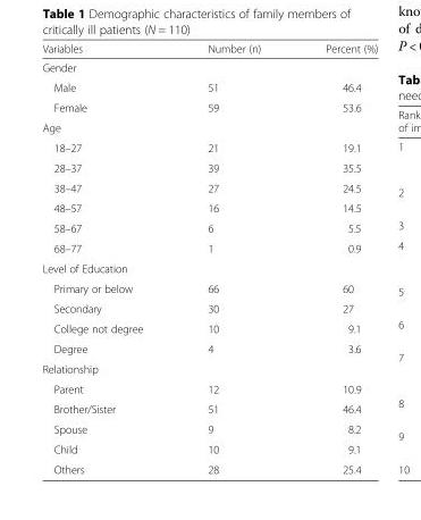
<table><thead><tr><td>Variables</td><td>Number (n)</td><td>Percent (%)</td></tr></thead><tbody><tr><td colspan="3">Gender</td></tr><tr><td>Male</td><td>51</td><td>46.4</td></tr><tr><td>Female</td><td>59</td><td>53.6</td></tr><tr><td colspan="3">Age</td></tr><tr><td>18–27</td><td>21</td><td>19.1</td></tr><tr><td>28–37</td><td>39</td><td>35.5</td></tr><tr><td>38–47</td><td>27</td><td>24.5</td></tr><tr><td>48–57</td><td>16</td><td>14.5</td></tr><tr><td>58–67</td><td>6</td><td>5.5</td></tr><tr><td>68–77</td><td>1</td><td>0.9</td></tr><tr><td colspan="3">Level of Education</td></tr><tr><td>Primary or below</td><td>66</td><td>60</td></tr><tr><td>Secondary</td><td>30</td><td>27</td></tr><tr><td>College not degree</td><td>10</td><td>9.1</td></tr><tr><td>Degree</td><td>4</td><td>3.6</td></tr><tr><td colspan="3">Relationship</td></tr><tr><td>Parent</td><td>12</td><td>10.9</td></tr><tr><td>Brother/Sister</td><td>51</td><td>46.4</td></tr><tr><td>Spouse</td><td>9</td><td>8.2</td></tr><tr><td>Child</td><td>10</td><td>9.1</td></tr><tr><td>Others</td><td>28</td><td>25.4</td></tr></tbody></table>